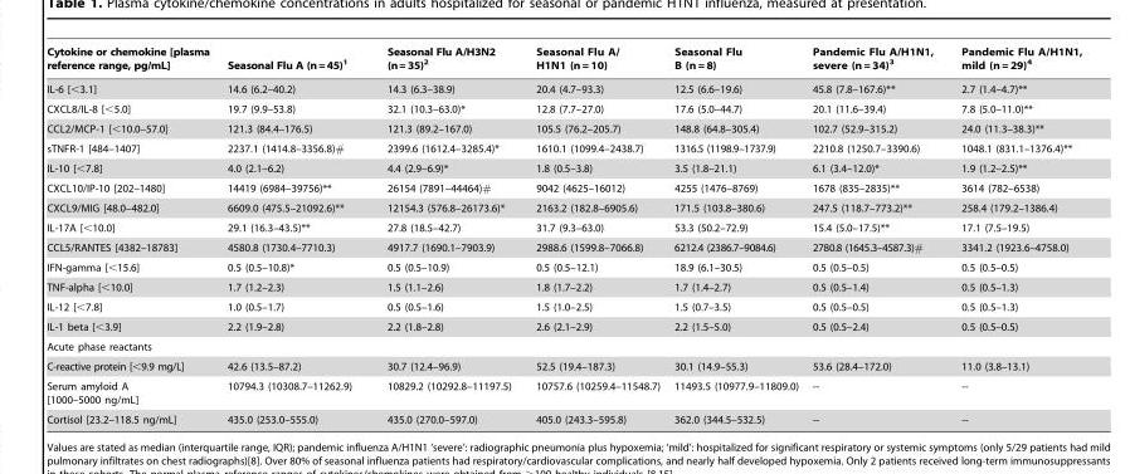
<table><thead><tr><td>Cytokine or chemokine [plasma reference range, pg/mL]</td><td>Seasonal Flu A (n=45)<sup>1</sup></td><td>Seasonal Flu A/H3N2 (n=35)<sup>2</sup></td><td>Seasonal Flu A/ H1N1 (n = 10)</td><td>Seasonal Flu B (n = 8)</td><td>Pandemic Flu A/H1N1, severe (n = 34)<sup>3</sup></td><td>Pandemic Flu A/H1N1, mild (n = 29)<sup>4</sup></td></tr></thead><tbody><tr><td>IL-6 [&lt;3.1]</td><td>14.6 (6.2–40.2)</td><td>14.3 (6.3–38.9)</td><td>20.4 (4.7–93.3)</td><td>12.5 (6.6–19.6)</td><td>45.8 (7.8–167.6)**</td><td>2.7 (1.4–4.7)**</td></tr><tr><td>CXCL8/IL-8 [&lt;5.0]</td><td>19.7 (9.9–53.8)</td><td>32.1 (10.3–63.0)*</td><td>12.8 (7.7–27.0)</td><td>17.6 (5.0–44.7)</td><td>20.1 (11.6–39.4)</td><td>7.8 (5.0–11.0)**</td></tr><tr><td>CCL2/MCP-1 [&lt;10.0–57.0]</td><td>121.3 (84.4–176.5)</td><td>121.3 (89.2–167.0)</td><td>105.5 (76.2–205.7)</td><td>148.8 (64.8–305.4)</td><td>102.7 (52.9–315.2)</td><td>24.0 (11.3–38.3)**</td></tr><tr><td>sTNFR-1 [484–1407]</td><td>2237.1 (1414.8–3356.8)#</td><td>2399.6 (1612.4–3285.4)*</td><td>1610.1 (1099.4–2438.7)</td><td>1316.5 (1198.9–1737.9)</td><td>2210.8 (1250.7–3390.6)</td><td>1048.1 (831.1–1376.4)**</td></tr><tr><td>IL-10 [&lt;7.8]</td><td>4.0 (2.1–6.2)</td><td>4.4 (2.9–6.9)*</td><td>1.8 (0.5–3.8)</td><td>3.5 (1.8–21.1)</td><td>6.1 (3.4–12.0)*</td><td>1.9 (1.2–2.5)**</td></tr><tr><td>CXCL10/IP-10 [202–1480]</td><td>14419 (6984–39756)**</td><td>26154 (7891–44464)#</td><td>9042 (4625–16012)</td><td>4255 (1476–8769)</td><td>1678 (835–2835)**</td><td>3614 (782–6538)</td></tr><tr><td>CXCL9/MIG [48.0–482.0]</td><td>6609.0 (475.5–21092.6)**</td><td>12154.3 (576.8–26173.6)*</td><td>2163.2 (182.8–6905.6)</td><td>171.5 (103.8–380.6)</td><td>247.5 (118.7–773.2)**</td><td>258.4 (179.2–1386.4)</td></tr><tr><td>IL-17A [&lt;10.0]</td><td>29.1 (16.3–43.5)**</td><td>27.8 (18.5–42.7)</td><td>31.7 (9.3–63.0)</td><td>53.3 (50.2–72.9)</td><td>15.4 (5.0–17.5)**</td><td>17.1 (7.5–19.5)</td></tr><tr><td>CCL5/RANTES [4382–18783]</td><td>4580.8 (1730.4–7710.3)</td><td>4917.7 (1690.1–7903.9)</td><td>2988.6 (1599.8–7066.8)</td><td>6212.4 (2386.7–9084.6)</td><td>2780.8 (1645.3–4587.3)#</td><td>3341.2 (1923.6–4758.0)</td></tr><tr><td>IFN-gamma [&lt;15.6]</td><td>0.5 (0.5–10.8)*</td><td>0.5 (0.5–10.9)</td><td>0.5 (0.5–12.1)</td><td>18.9 (6.1–30.5)</td><td>0.5 (0.5–0.5)</td><td>0.5 (0.5–0.5)</td></tr><tr><td>TNF-alpha [&lt;10.0]</td><td>1.7 (1.2–2.3)</td><td>1.5 (1.1–2.6)</td><td>1.8 (1.7–2.2)</td><td>1.7 (1.4–2.7)</td><td>0.5 (0.5–1.4)</td><td>0.5 (0.5–1.3)</td></tr><tr><td>IL-12 [&lt;7.8]</td><td>1.0 (0.5–1.7)</td><td>0.5 (0.5–1.6)</td><td>1.5 (1.0–2.5)</td><td>1.5 (0.7–3.5)</td><td>0.5 (0.5–0.5)</td><td>0.5 (0.5–1.3)</td></tr><tr><td>IL-1 beta [&lt;3.9]</td><td>2.2 (1.9–2.8)</td><td>2.2 (1.8–2.8)</td><td>2.6 (2.1–2.9)</td><td>2.2 (1.5–5.0)</td><td>0.5 (0.5–2.4)</td><td>0.5 (0.5–0.5)</td></tr><tr><td colspan="7">Acute phase reactants</td></tr><tr><td>C-reactive protein [&lt;9.9 mg/L]</td><td>42.6 (13.5–87.2)</td><td>30.7 (12.4–96.9)</td><td>52.5 (19.4–187.3)</td><td>30.1 (14.9–55.3)</td><td>53.6 (28.4–172.0)</td><td>11.0 (3.8–13.1)</td></tr><tr><td>Serum amyloid A [1000–5000 ng/mL]</td><td>10794.3 (10308.7–11262.9)</td><td>10829.2 (10292.8–11197.5)</td><td>10757.6 (10259.4–11548.7)</td><td>11493.5 (10977.9–11809.0)</td><td>--</td><td>--</td></tr><tr><td>Cortisol [23.2–118.5 ng/mL]</td><td>435.0 (253.0–555.0)</td><td>435.0 (270.0–597.0)</td><td>405.0 (243.3–595.8)</td><td>362.0 (344.5–532.5)</td><td>--</td><td>--</td></tr></tbody></table>